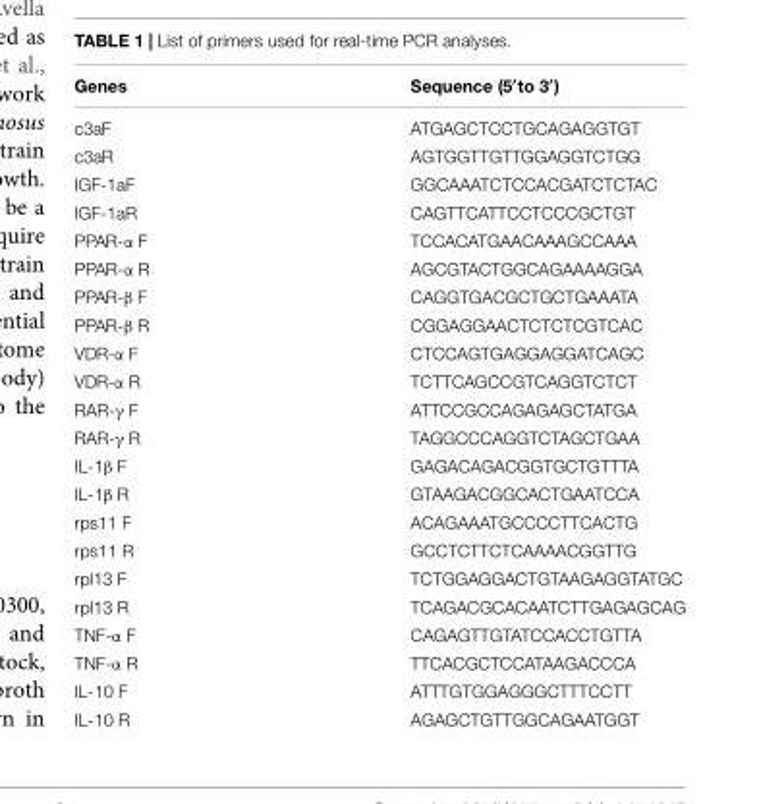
<table><thead><tr><td>Genes</td><td>Sequence (5′to 3′)</td></tr></thead><tbody><tr><td>c3aF</td><td>ATGAGCTCCTGCAGAGGTGT</td></tr><tr><td>c3aR</td><td>AGTGGTTGTTGGAGGTCTGG</td></tr><tr><td>IGF-1aF</td><td>GGCAAATCTCCACGATCTCTAC</td></tr><tr><td>IGF-1aR</td><td>CAGTTCATTCCTCCCGCTGT</td></tr><tr><td>PPAR-α F</td><td>TCCACATGAACAAAGCCAAA</td></tr><tr><td>PPAR-α R</td><td>AGCGTACTGGCAGAAAAGGA</td></tr><tr><td>PPAR-β F</td><td>CAGGTGACGCTGCTGAAATA</td></tr><tr><td>PPAR-β R</td><td>CGGAGGAACTCTCTCGTCAC</td></tr><tr><td>VDR-α F</td><td>CTCCAGTGAGGAGGATCAGC</td></tr><tr><td>VDR-α R</td><td>TCTTCAGCCGTCAGGTCTCT</td></tr><tr><td>RAR-γ F</td><td>ATTCCGCCAGAGAGCTATGA</td></tr><tr><td>RAR-γ R</td><td>TAGGCCCAGGTCTAGCTGAA</td></tr><tr><td>IL-1β F</td><td>GAGACAGACGGTGCTGTTTA</td></tr><tr><td>IL-1β R</td><td>GTAAGACGGCACTGAATCCA</td></tr><tr><td>rps11 F</td><td>ACAGAAATGCCCCTTCACTG</td></tr><tr><td>rps11 R</td><td>GCCTCTTCTCAAAACGGTTG</td></tr><tr><td>rpl13 F</td><td>TCTGGAGGACTGTAAGAGGTATGC</td></tr><tr><td>rpl13 R</td><td>TCAGACGCACAATCTTGAGAGCAG</td></tr><tr><td>TNF-α F</td><td>CAGAGTTGTATCCACCTGTTA</td></tr><tr><td>TNF-α R</td><td>TTCACGCTCCATAAGACCCA</td></tr><tr><td>IL-10 F</td><td>ATTTGTGGAGGGCTTTCCTT</td></tr><tr><td>IL-10 R</td><td>AGAGCTGTTGGCAGAATGGT</td></tr></tbody></table>